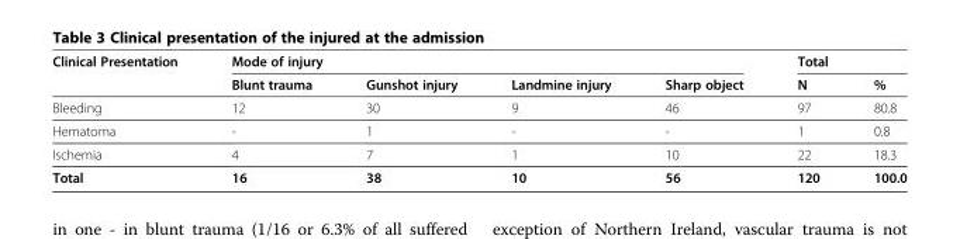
<table><thead><tr><td rowspan="2">Clinical Presentation</td><td colspan="4">Mode of injury</td><td colspan="2">Total</td></tr><tr><td>Blunt trauma</td><td>Gunshot injury</td><td>Landmine injury</td><td>Sharp object</td><td>N</td><td>%</td></tr></thead><tbody><tr><td>Bleeding</td><td>12</td><td>30</td><td>9</td><td>46</td><td>97</td><td>80.8</td></tr><tr><td>Hematoma</td><td>-</td><td>1</td><td>-</td><td>-</td><td>1</td><td>0.8</td></tr><tr><td>Ischemia</td><td>4</td><td>7</td><td>1</td><td>10</td><td>22</td><td>18.3</td></tr><tr><td>Total</td><td>16</td><td>38</td><td>10</td><td>56</td><td>120</td><td>100.0</td></tr></tbody></table>